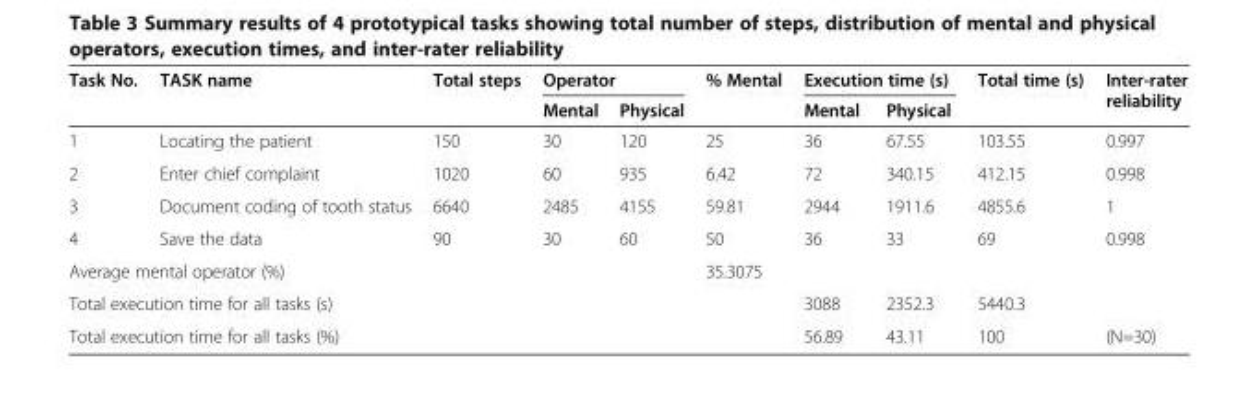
<table><thead><tr><td rowspan="2">Task No.</td><td rowspan="2">TASK name</td><td rowspan="2">Total steps</td><td colspan="2">Operator</td><td rowspan="2">% Mental</td><td colspan="2">Execution time (s)</td><td rowspan="2">Total time (s)</td><td rowspan="2">Inter-rater reliability</td></tr><tr><td>Mental</td><td>Physical</td><td>Mental</td><td>Physical</td></tr></thead><tbody><tr><td>1</td><td>Locating the patient</td><td>150</td><td>30</td><td>120</td><td>25</td><td>36</td><td>67.55</td><td>103.55</td><td>0.997</td></tr><tr><td>2</td><td>Enter chief complaint</td><td>1020</td><td>60</td><td>935</td><td>6.42</td><td>72</td><td>340.15</td><td>412.15</td><td>0.998</td></tr><tr><td>3</td><td>Document coding of tooth status</td><td>6640</td><td>2485</td><td>4155</td><td>59.81</td><td>2944</td><td>1911.6</td><td>4855.6</td><td>1</td></tr><tr><td>4</td><td>Save the data</td><td>90</td><td>30</td><td>60</td><td>50</td><td>36</td><td>33</td><td>69</td><td>0.998</td></tr><tr><td colspan="3">Average mental operator (%)</td><td></td><td></td><td>35.3075</td><td></td><td></td><td></td><td></td></tr><tr><td colspan="3">Total execution time for all tasks (s)</td><td></td><td></td><td></td><td>3088</td><td>2352.3</td><td>5440.3</td><td></td></tr><tr><td colspan="3">Total execution time for all tasks (%)</td><td></td><td></td><td></td><td>56.89</td><td>43.11</td><td>100</td><td>(N=30)</td></tr></tbody></table>